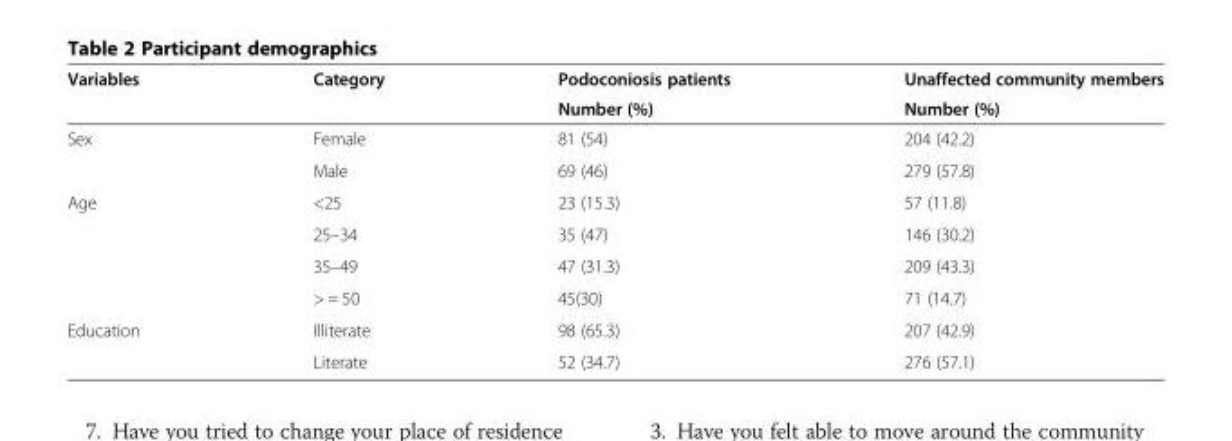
<table><thead><tr><td rowspan="2">Variables</td><td rowspan="2">Category</td><td rowspan="2">Podoconiosis patients Number (%)</td><td rowspan="2">Unaffected community members Number (%)</td></tr><tr></tr></thead><tbody><tr><td rowspan="2">Sex</td><td>Female</td><td>81 (54)</td><td>204 (42.2)</td></tr><tr><td>Male</td><td>69 (46)</td><td>279 (57.8)</td></tr><tr><td rowspan="4">Age</td><td>&lt;25</td><td>23 (15.3)</td><td>57 (11.8)</td></tr><tr><td>25–34</td><td>35 (47)</td><td>146 (30.2)</td></tr><tr><td>35–49</td><td>47 (31.3)</td><td>209 (43.3)</td></tr><tr><td>&gt; = 50</td><td>45(30)</td><td>71 (14.7)</td></tr><tr><td rowspan="2">Education</td><td>Illiterate</td><td>98 (65.3)</td><td>207 (42.9)</td></tr><tr><td>Literate</td><td>52 (34.7)</td><td>276 (57.1)</td></tr></tbody></table>